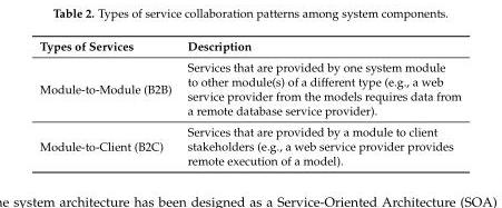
<table><thead><tr><td>Types of Services</td><td>Description</td></tr></thead><tbody><tr><td>Module-to-Module (B2B)</td><td>Services that are provided by one system module to other module(s) of a different type (e.g., a web service provider from the models requires data from a remote database service provider).</td></tr><tr><td>Module-to-Client (B2C)</td><td>Services that are provided by a module to client stakeholders (e.g., a web service provider provides remote execution of a model).</td></tr></tbody></table>